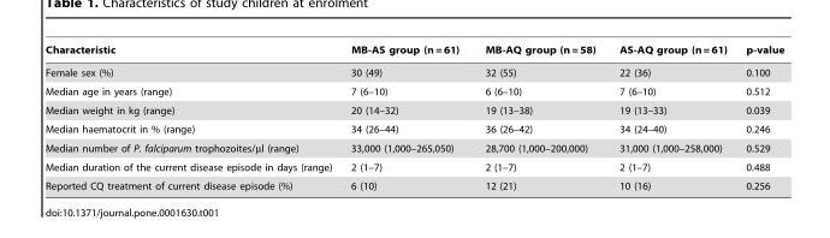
<table><thead><tr><td>Characteristic</td><td>MB-AS group (n = 61)</td><td>MB-AQ group (n = 58)</td><td>AS-AQ group (n = 61)</td><td>p-value</td></tr></thead><tbody><tr><td>Female sex (%)</td><td>30 (49)</td><td>32 (55)</td><td>22 (36)</td><td>0.100</td></tr><tr><td>Median age in years (range)</td><td>7 (6–10)</td><td>6 (6–10)</td><td>7 (6–10)</td><td>0.512</td></tr><tr><td>Median weight in kg (range)</td><td>20 (14–32)</td><td>19 (13–38)</td><td>19 (13–33)</td><td>0.039</td></tr><tr><td>Median haematocrit in % (range)</td><td>34 (26–44)</td><td>36 (26–42)</td><td>34 (24–40)</td><td>0.246</td></tr><tr><td>Median number of P. falciparum trophozoites/µl (range)</td><td>33,000 (1,000–265,050)</td><td>28,700 (1,000–200,000)</td><td>31,000 (1,000–258,000)</td><td>0.529</td></tr><tr><td>Median duration of the current disease episode in days (range)</td><td>2 (1–7)</td><td>2 (1–7)</td><td>2 (1–7)</td><td>0.488</td></tr><tr><td>Reported CQ treatment of current disease episode (%)</td><td>6 (10)</td><td>12 (21)</td><td>10 (16)</td><td>0.256</td></tr></tbody></table>